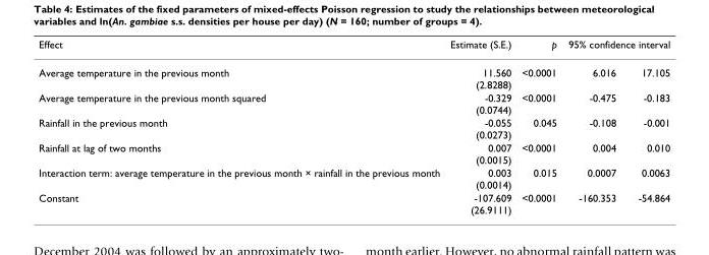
<table><thead><tr><td rowspan="2">Effect Average temperature in the previous month</td><td rowspan="2">Estimate (S.E.) 11.560 (2.8288)</td><td rowspan="2">p &lt;0.0001</td><td colspan="2">95% confidence interval</td></tr><tr><td>6.016</td><td>17.105</td></tr></thead><tbody><tr><td>Average temperature in the previous month squared</td><td>-0.329 (0.0744)</td><td>&lt;0.0001</td><td>-0.475</td><td>-0.183</td></tr><tr><td>Rainfall in the previous month</td><td>-0.055 (0.0273)</td><td>0.045</td><td>-0.108</td><td>-0.001</td></tr><tr><td>Rainfall at lag of two months</td><td>0.007 (0.0015)</td><td>&lt;0.0001</td><td>0.004</td><td>0.010</td></tr><tr><td>Interaction term: average temperature in the previous month × rainfall in the previous month</td><td>0.003 (0.0014)</td><td>0.015</td><td>0.0007</td><td>0.0063</td></tr><tr><td>Constant</td><td>-107.609 (26.9111)</td><td>&lt;0.0001</td><td>-160.353</td><td>-54.864</td></tr></tbody></table>